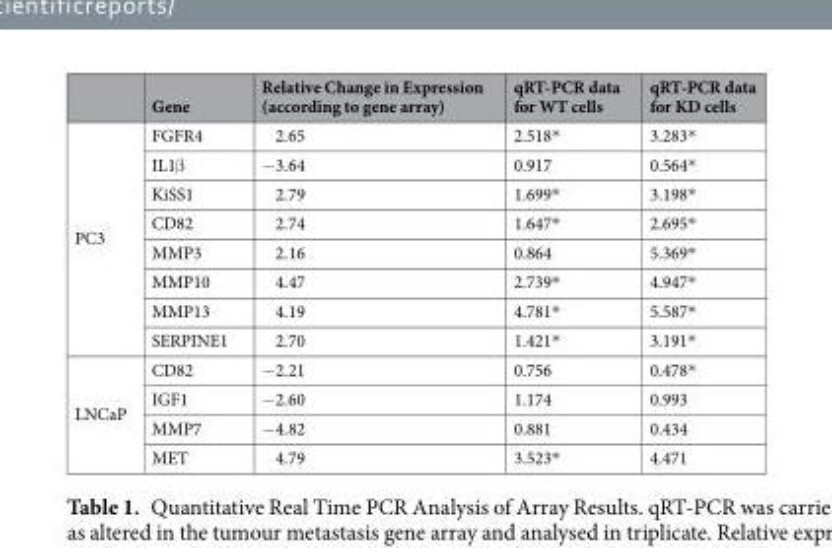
<table><thead><tr><td></td><td>Gene</td><td>Relative Change in Expression (according to gene array)</td><td>qRT-PCR data for WT cells</td><td>qRT-PCR data for KD cells</td></tr></thead><tbody><tr><td rowspan="8">PC3</td><td>FGFR4</td><td>2.65</td><td>2.518*</td><td>3.283*</td></tr><tr><td>IL1β</td><td>−3.64</td><td>0.917</td><td>0.564*</td></tr><tr><td>KiSS1</td><td>2.79</td><td>1.699*</td><td>3.198*</td></tr><tr><td>CD82</td><td>2.74</td><td>1.647*</td><td>2.695*</td></tr><tr><td>MMP3</td><td>2.16</td><td>0.864</td><td>5.369*</td></tr><tr><td>MMP10</td><td>4.47</td><td>2.739*</td><td>4.947*</td></tr><tr><td>MMP13</td><td>4.19</td><td>4.781*</td><td>5.587*</td></tr><tr><td>SERPINE1</td><td>2.70</td><td>1.421*</td><td>3.191*</td></tr><tr><td rowspan="4">LNCaP</td><td>CD82</td><td>−2.21</td><td>0.756</td><td>0.478*</td></tr><tr><td>IGF1</td><td>−2.60</td><td>1.174</td><td>0.993</td></tr><tr><td>MMP7</td><td>−4.82</td><td>0.881</td><td>0.434</td></tr><tr><td>MET</td><td>4.79</td><td>3.523*</td><td>4.471</td></tr></tbody></table>